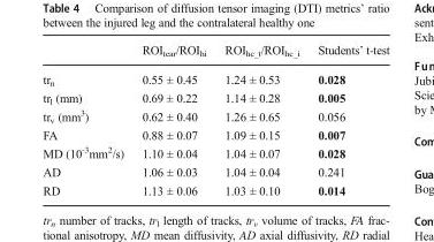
<table><thead><tr><td></td><td>ROI<sub>tear</sub>/ROI<sub>hi</sub></td><td>ROI<sub>hc_t</sub>/ROI<sub>hc_i</sub></td><td>Students’ t-test</td></tr></thead><tbody><tr><td>tr<sub>n</sub></td><td>0.55 ± 0.45</td><td>1.24 ± 0.53</td><td>0.028</td></tr><tr><td>tr<sub>l</sub> (mm)</td><td>0.69 ± 0.22</td><td>1.14 ± 0.28</td><td>0.005</td></tr><tr><td>tr<sub>v</sub> (mm<sup>3</sup>)</td><td>0.62 ± 0.40</td><td>1.26 ± 0.65</td><td>0.056</td></tr><tr><td>FA</td><td>0.88 ± 0.07</td><td>1.09 ± 0.15</td><td>0.007</td></tr><tr><td>MD (10<sup>-3</sup>mm<sup>2</sup>/s)</td><td>1.10 ± 0.04</td><td>1.04 ± 0.07</td><td>0.028</td></tr><tr><td>AD</td><td>1.06 ± 0.03</td><td>1.04 ± 0.04</td><td>0.241</td></tr><tr><td>RD</td><td>1.13 ± 0.06</td><td>1.03 ± 0.10</td><td>0.014</td></tr></tbody></table>